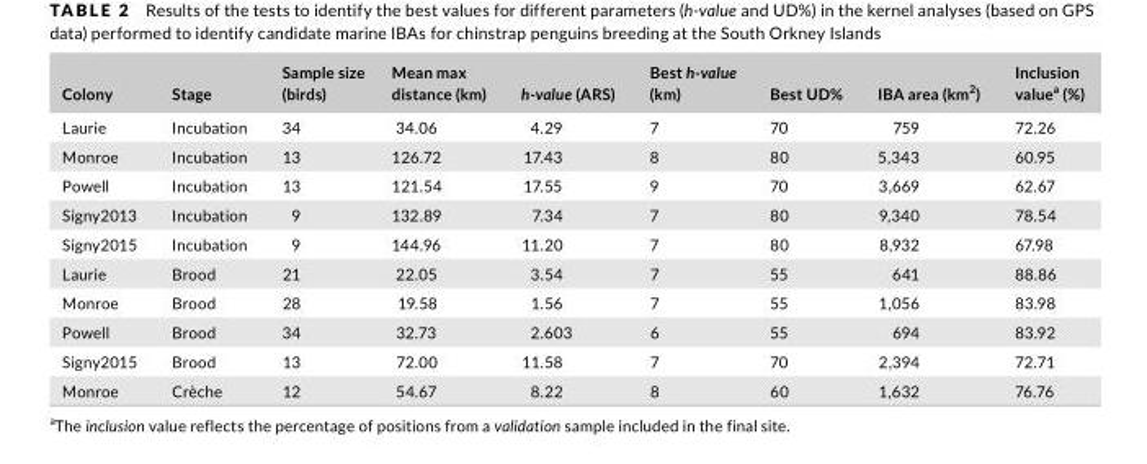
<table><thead><tr><td>Colony</td><td>Stage</td><td>Sample size (birds)</td><td>Mean max distance (km)</td><td>h-value (ARS)</td><td>Best h-value (km)</td><td>Best UD%</td><td>IBA area (km<sup>2</sup>)</td><td>Inclusion value<sup>a</sup> (%)</td></tr></thead><tbody><tr><td>Laurie</td><td>Incubation</td><td>34</td><td>34.06</td><td>4.29</td><td>7</td><td>70</td><td>759</td><td>72.26</td></tr><tr><td>Monroe</td><td>Incubation</td><td>13</td><td>126.72</td><td>17.43</td><td>8</td><td>80</td><td>5,343</td><td>60.95</td></tr><tr><td>Powell</td><td>Incubation</td><td>13</td><td>121.54</td><td>17.55</td><td>9</td><td>70</td><td>3,669</td><td>62.67</td></tr><tr><td>Signy2013</td><td>Incubation</td><td>9</td><td>132.89</td><td>7.34</td><td>7</td><td>80</td><td>9,340</td><td>78.54</td></tr><tr><td>Signy2015</td><td>Incubation</td><td>9</td><td>144.96</td><td>11.20</td><td>7</td><td>80</td><td>8,932</td><td>67.98</td></tr><tr><td>Laurie</td><td>Brood</td><td>21</td><td>22.05</td><td>3.54</td><td>7</td><td>55</td><td>641</td><td>88.86</td></tr><tr><td>Monroe</td><td>Brood</td><td>28</td><td>19.58</td><td>1.56</td><td>7</td><td>55</td><td>1,056</td><td>83.98</td></tr><tr><td>Powell</td><td>Brood</td><td>34</td><td>32.73</td><td>2.603</td><td>6</td><td>55</td><td>694</td><td>83.92</td></tr><tr><td>Signy2015</td><td>Brood</td><td>13</td><td>72.00</td><td>11.58</td><td>7</td><td>70</td><td>2,394</td><td>72.71</td></tr><tr><td>Monroe</td><td>Crèche</td><td>12</td><td>54.67</td><td>8.22</td><td>8</td><td>60</td><td>1,632</td><td>76.76</td></tr></tbody></table>